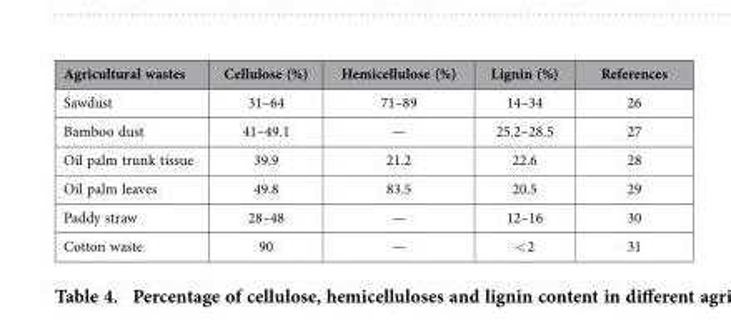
<table><thead><tr><td>Agricultural wastes</td><td>Cellulose (%)</td><td>Hemicellulose (%)</td><td>Lignin (%)</td><td>References</td></tr></thead><tbody><tr><td>Sawdust</td><td>31–64</td><td>71–89</td><td>14–34</td><td>26</td></tr><tr><td>Bamboo dust</td><td>41–49.1</td><td>—</td><td>25.2–28.5</td><td>27</td></tr><tr><td>Oil palm trunk tissue</td><td>39.9</td><td>21.2</td><td>22.6</td><td>28</td></tr><tr><td>Oil palm leaves</td><td>49.8</td><td>83.5</td><td>20.5</td><td>29</td></tr><tr><td>Paddy straw</td><td>28–48</td><td>—</td><td>12–16</td><td>30</td></tr><tr><td>Cotton waste</td><td>90</td><td>—</td><td>&lt; 2</td><td>31</td></tr></tbody></table>